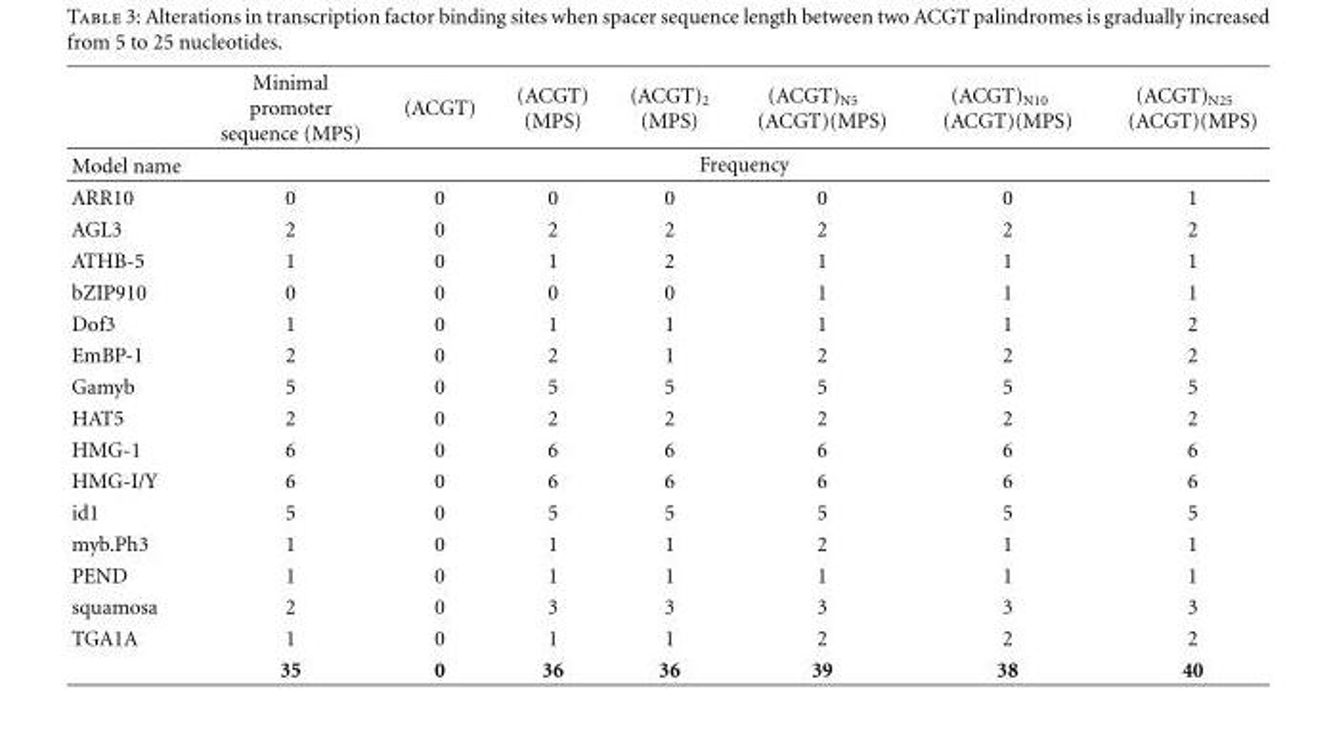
<table><thead><tr><td></td><td>Minimal promoter sequence (MPS)</td><td>(ACGT)</td><td>(ACGT) (MPS)</td><td>(ACGT)<sub>2</sub> (MPS)</td><td>(ACGT)<sub>N5</sub> (ACGT)(MPS)</td><td>(ACGT)<sub>N10</sub> (ACGT)(MPS)</td><td>(ACGT)<sub>N25</sub> (ACGT)(MPS)</td></tr></thead><tbody><tr><td>Model name</td><td colspan="7">Frequency</td></tr><tr><td>ARR10</td><td>0</td><td>0</td><td>0</td><td>0</td><td>0</td><td>0</td><td>1</td></tr><tr><td>AGL3</td><td>2</td><td>0</td><td>2</td><td>2</td><td>2</td><td>2</td><td>2</td></tr><tr><td>ATHB-5</td><td>1</td><td>0</td><td>1</td><td>2</td><td>1</td><td>1</td><td>1</td></tr><tr><td>bZIP910</td><td>0</td><td>0</td><td>0</td><td>0</td><td>1</td><td>1</td><td>1</td></tr><tr><td>Dof3</td><td>1</td><td>0</td><td>1</td><td>1</td><td>1</td><td>1</td><td>2</td></tr><tr><td>EmBP-1</td><td>2</td><td>0</td><td>2</td><td>1</td><td>2</td><td>2</td><td>2</td></tr><tr><td>Gamyb</td><td>5</td><td>0</td><td>5</td><td>5</td><td>5</td><td>5</td><td>5</td></tr><tr><td>HAT5</td><td>2</td><td>0</td><td>2</td><td>2</td><td>2</td><td>2</td><td>2</td></tr><tr><td>HMG-1</td><td>6</td><td>0</td><td>6</td><td>6</td><td>6</td><td>6</td><td>6</td></tr><tr><td>HMG-I/Y</td><td>6</td><td>0</td><td>6</td><td>6</td><td>6</td><td>6</td><td>6</td></tr><tr><td>id1</td><td>5</td><td>0</td><td>5</td><td>5</td><td>5</td><td>5</td><td>5</td></tr><tr><td>myb.Ph3</td><td>1</td><td>0</td><td>1</td><td>1</td><td>2</td><td>1</td><td>1</td></tr><tr><td>PEND</td><td>1</td><td>0</td><td>1</td><td>1</td><td>1</td><td>1</td><td>1</td></tr><tr><td>squamosa</td><td>2</td><td>0</td><td>3</td><td>3</td><td>3</td><td>3</td><td>3</td></tr><tr><td rowspan="2">TGA1A</td><td>1</td><td>0</td><td>1</td><td>1</td><td>2</td><td>2</td><td>2</td></tr><tr><td>35</td><td>0</td><td>36</td><td>36</td><td>39</td><td>38</td><td>40</td></tr></tbody></table>